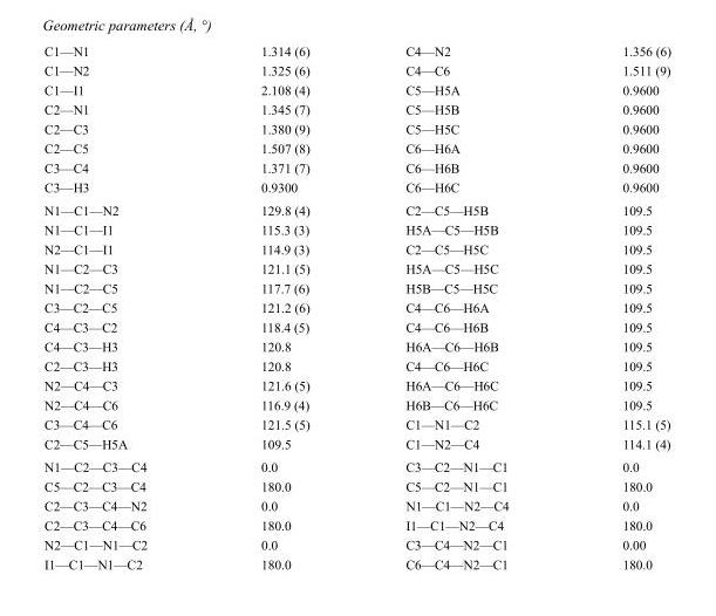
<table><tbody><tr><td>C1—N1</td><td>1.314 (6)</td><td>C4—N2</td><td>1.356 (6)</td></tr><tr><td>C1—N2</td><td>1.325 (6)</td><td>C4—C6</td><td>1.511 (9)</td></tr><tr><td>C1—I1</td><td>2.108 (4)</td><td>C5—H5A</td><td>0.9600</td></tr><tr><td>C2—N1</td><td>1.345 (7)</td><td>C5—H5B</td><td>0.9600</td></tr><tr><td>C2—C3</td><td>1.380 (9)</td><td>C5—H5C</td><td>0.9600</td></tr><tr><td>C2—C5</td><td>1.507 (8)</td><td>C6—H6A</td><td>0.9600</td></tr><tr><td>C3—C4</td><td>1.371 (7)</td><td>C6—H6B</td><td>0.9600</td></tr><tr><td>C3—H3</td><td>0.9300</td><td>C6—H6C</td><td>0.9600</td></tr><tr><td>N1—C1—N2</td><td>129.8 (4)</td><td>C2—C5—H5B</td><td>109.5</td></tr><tr><td>N1—C1—I1</td><td>115.3 (3)</td><td>H5A—C5—H5B</td><td>109.5</td></tr><tr><td>N2—C1—I1</td><td>114.9 (3)</td><td>C2—C5—H5C</td><td>109.5</td></tr><tr><td>N1—C2—C3</td><td>121.1 (5)</td><td>H5A—C5—H5C</td><td>109.5</td></tr><tr><td>N1—C2—C5</td><td>117.7 (6)</td><td>H5B—C5—H5C</td><td>109.5</td></tr><tr><td>C3—C2—C5</td><td>121.2 (6)</td><td>C4—C6—H6A</td><td>109.5</td></tr><tr><td>C4—C3—C2</td><td>118.4 (5)</td><td>C4—C6—H6B</td><td>109.5</td></tr><tr><td>C4—C3—H3</td><td>120.8</td><td>H6A—C6—H6B</td><td>109.5</td></tr><tr><td>C2—C3—H3</td><td>120.8</td><td>C4—C6—H6C</td><td>109.5</td></tr><tr><td>N2—C4—C3</td><td>121.6 (5)</td><td>H6A—C6—H6C</td><td>109.5</td></tr><tr><td>N2—C4—C6</td><td>116.9 (4)</td><td>H6B—C6—H6C</td><td>109.5</td></tr><tr><td>C3—C4—C6</td><td>121.5 (5)</td><td>C1—N1—C2</td><td>115.1 (5)</td></tr><tr><td>C2—C5—H5A</td><td>109.5</td><td>C1—N2—C4</td><td>114.1 (4)</td></tr><tr><td>N1—C2—C3—C4</td><td>0.0</td><td>C3—C2—N1—C1</td><td>0.0</td></tr><tr><td>C5—C2—C3—C4</td><td>180.0</td><td>C5—C2—N1—C1</td><td>180.0</td></tr><tr><td>C2—C3—C4—N2</td><td>0.0</td><td>N1—C1—N2—C4</td><td>0.0</td></tr><tr><td>C2—C3—C4—C6</td><td>180.0</td><td>I1—C1—N2—C4</td><td>180.0</td></tr><tr><td>N2—C1—N1—C2</td><td>0.0</td><td>C3—C4—N2—C1</td><td>0.00</td></tr><tr><td>I1—C1—N1—C2</td><td>180.0</td><td>C6—C4—N2—C1</td><td>180.0</td></tr></tbody></table>